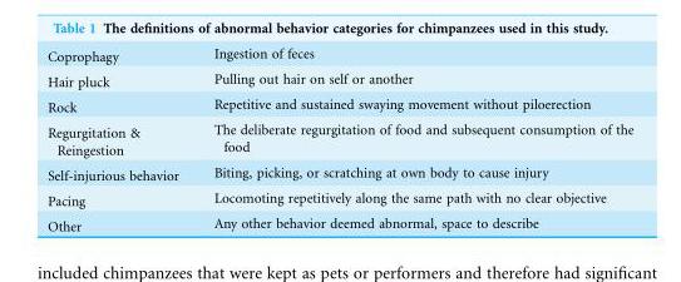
<table><tbody><tr><td>Coprophagy</td><td>Ingestion of feces</td></tr><tr><td>Hair pluck</td><td>Pulling out hair on self or another</td></tr><tr><td>Rock</td><td>Repetitive and sustained swaying movement without piloerection</td></tr><tr><td>Regurgitation &amp; Reingestion</td><td>The deliberate regurgitation of food and subsequent consumption of the food</td></tr><tr><td>Self-injurious behavior</td><td>Biting, picking, or scratching at own body to cause injury</td></tr><tr><td>Pacing</td><td>Locomoting repetitively along the same path with no clear objective</td></tr><tr><td>Other</td><td>Any other behavior deemed abnormal, space to describe</td></tr></tbody></table>